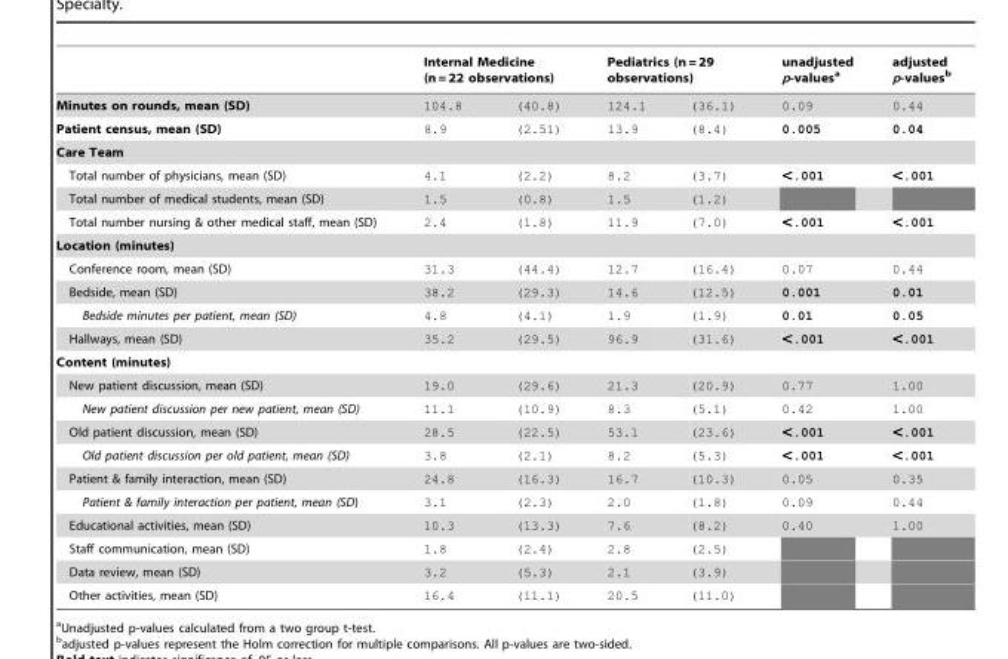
<table><thead><tr><td rowspan="2">Minutes on rounds, mean (SD)</td><td colspan="2">Internal Medicine (n = 22 observations)</td><td colspan="2">Pediatrics (n = 29 observations)</td><td rowspan="2">unadjusted p-values<sup>a</sup> 0.09</td><td rowspan="2">adjusted p-values<sup>b</sup> 0.44</td></tr><tr><td>104.8</td><td>(40.8)</td><td>124.1</td><td>(36.1)</td></tr></thead><tbody><tr><td>Patient census, mean (SD)</td><td>8.9</td><td>(2.51)</td><td>13.9</td><td>(8.4)</td><td>0.005</td><td>0.04</td></tr><tr><td colspan="7">Care Team</td></tr><tr><td>Total number of physicians, mean (SD)</td><td>4.1</td><td>(2.2)</td><td>8.2</td><td>(3.7)</td><td>&lt;.001</td><td>&lt;.001</td></tr><tr><td>Total number of medical students, mean (SD)</td><td>1.5</td><td>(0.8)</td><td>1.5</td><td>(1.2)</td><td></td><td></td></tr><tr><td>Total number nursing &amp; other medical staff, mean (SD)</td><td>2.4</td><td>(1.8)</td><td>11.9</td><td>(7.0)</td><td>&lt;.001</td><td>&lt;.001</td></tr><tr><td colspan="7">Location (minutes)</td></tr><tr><td>Conference room, mean (SD)</td><td>31.3</td><td>(44.4)</td><td>12.7</td><td>(16.4)</td><td>0.07</td><td>0.44</td></tr><tr><td>Bedside, mean (SD)</td><td>38.2</td><td>(29.3)</td><td>14.6</td><td>(12.5)</td><td>0.001</td><td>0.01</td></tr><tr><td>Bedside minutes per patient, mean (SD)</td><td>4.8</td><td>(4.1)</td><td>1.9</td><td>(1.9)</td><td>0.01</td><td>0.05</td></tr><tr><td>Hallways, mean (SD)</td><td>35.2</td><td>(29.5)</td><td>96.9</td><td>(31.6)</td><td>&lt;.001</td><td>&lt;.001</td></tr><tr><td colspan="7">Content (minutes)</td></tr><tr><td>New patient discussion, mean (SD)</td><td>19.0</td><td>(29.6)</td><td>21.3</td><td>(20.9)</td><td>0.77</td><td>1.00</td></tr><tr><td>New patient discussion per new patient, mean (SD)</td><td>11.1</td><td>(10.9)</td><td>8.3</td><td>(5.1)</td><td>0.42</td><td>1.00</td></tr><tr><td>Old patient discussion, mean (SD)</td><td>28.5</td><td>(22.5)</td><td>53.1</td><td>(23.6)</td><td>&lt;.001</td><td>&lt;.001</td></tr><tr><td>Old patient discussion per old patient, mean (SD)</td><td>3.8</td><td>(2.1)</td><td>8.2</td><td>(5.3)</td><td>&lt;.001</td><td>&lt;.001</td></tr><tr><td>Patient &amp; family interaction, mean (SD)</td><td>24.8</td><td>(16.3)</td><td>16.7</td><td>(10.3)</td><td>0.05</td><td>0.35</td></tr><tr><td>Patient &amp; family interaction per patient, mean (SD)</td><td>3.1</td><td>(2.3)</td><td>2.0</td><td>(1.8)</td><td>0.09</td><td>0.44</td></tr><tr><td>Educational activities, mean (SD)</td><td>10.3</td><td>(13.3)</td><td>7.6</td><td>(8.2)</td><td>0.40</td><td>1.00</td></tr><tr><td>Staff communication, mean (SD)</td><td>1.8</td><td>(2.4)</td><td>2.8</td><td>(2.5)</td><td></td><td></td></tr><tr><td>Data review, mean (SD)</td><td>3.2</td><td>(5.3)</td><td>2.1</td><td>(3.9)</td><td></td><td></td></tr><tr><td>Other activities, mean (SD)</td><td>16.4</td><td>(11.1)</td><td>20.5</td><td>(11.0)</td><td></td><td></td></tr></tbody></table>